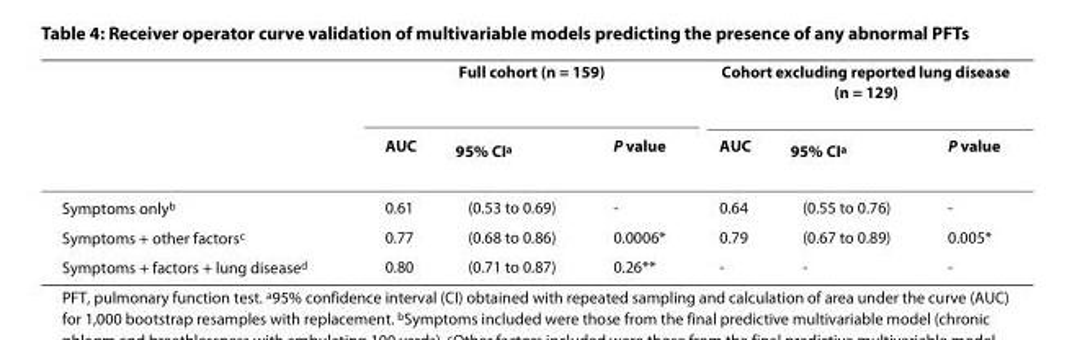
<table><thead><tr><td rowspan="2"></td><td colspan="3">Full cohort (n = 159)</td><td colspan="3">Cohort excluding reported lung disease (n = 129)</td></tr><tr><td>AUC</td><td>95% CI<sup>a</sup></td><td>P value</td><td>AUC</td><td>95% CI<sup>a</sup></td><td>P value</td></tr></thead><tbody><tr><td>Symptoms only<sup>b</sup></td><td>0.61</td><td>(0.53 to 0.69)</td><td>-</td><td>0.64</td><td>(0.55 to 0.76)</td><td>-</td></tr><tr><td>Symptoms + other factors<sup>c</sup></td><td>0.77</td><td>(0.68 to 0.86)</td><td>0.0006*</td><td>0.79</td><td>(0.67 to 0.89)</td><td>0.005*</td></tr><tr><td>Symptoms + factors + lung disease<sup>d</sup></td><td>0.80</td><td>(0.71 to 0.87)</td><td>0.26**</td><td>-</td><td>-</td><td>-</td></tr></tbody></table>